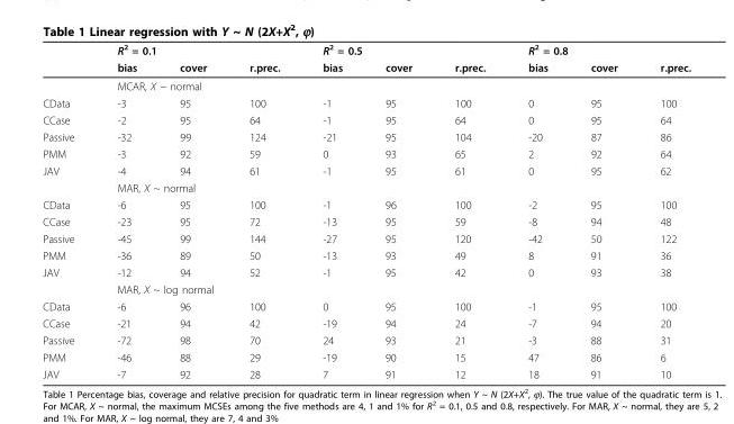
<table><thead><tr><td rowspan="2"></td><td colspan="3">R<sup>2</sup> = 0.1</td><td colspan="3">R<sup>2</sup> = 0.5</td><td colspan="3">R<sup>2</sup> = 0.8</td></tr><tr><td>bias</td><td>cover</td><td>r.prec.</td><td>bias</td><td>cover</td><td>r.prec.</td><td>bias</td><td>cover</td><td>r.prec.</td></tr></thead><tbody><tr><td></td><td colspan="9">MCAR, X ~ normal</td></tr><tr><td>CData</td><td>-3</td><td>95</td><td>100</td><td>-1</td><td>95</td><td>100</td><td>0</td><td>95</td><td>100</td></tr><tr><td>CCase</td><td>-2</td><td>95</td><td>64</td><td>-1</td><td>95</td><td>64</td><td>0</td><td>95</td><td>64</td></tr><tr><td>Passive</td><td>-32</td><td>99</td><td>124</td><td>-21</td><td>95</td><td>104</td><td>-20</td><td>87</td><td>86</td></tr><tr><td>PMM</td><td>-3</td><td>92</td><td>59</td><td>0</td><td>93</td><td>65</td><td>2</td><td>92</td><td>64</td></tr><tr><td rowspan="2">JAV</td><td>-4</td><td>94</td><td>61</td><td>-1</td><td>95</td><td>61</td><td>0</td><td>95</td><td>62</td></tr><tr><td colspan="9">MAR, X ~ normal</td></tr><tr><td>CData</td><td>-6</td><td>95</td><td>100</td><td>-1</td><td>96</td><td>100</td><td>-2</td><td>95</td><td>100</td></tr><tr><td>CCase</td><td>-23</td><td>95</td><td>72</td><td>-13</td><td>95</td><td>59</td><td>-8</td><td>94</td><td>48</td></tr><tr><td>Passive</td><td>-45</td><td>99</td><td>144</td><td>-27</td><td>95</td><td>120</td><td>-42</td><td>50</td><td>122</td></tr><tr><td>PMM</td><td>-36</td><td>89</td><td>50</td><td>-13</td><td>93</td><td>49</td><td>8</td><td>91</td><td>36</td></tr><tr><td rowspan="2">JAV</td><td>-12</td><td>94</td><td>52</td><td>-1</td><td>95</td><td>42</td><td>0</td><td>93</td><td>38</td></tr><tr><td colspan="9">MAR, X ~ log normal</td></tr><tr><td>CData</td><td>-6</td><td>96</td><td>100</td><td>0</td><td>95</td><td>100</td><td>-1</td><td>95</td><td>100</td></tr><tr><td>CCase</td><td>-21</td><td>94</td><td>42</td><td>-19</td><td>94</td><td>24</td><td>-7</td><td>94</td><td>20</td></tr><tr><td>Passive</td><td>-72</td><td>98</td><td>70</td><td>24</td><td>93</td><td>21</td><td>-3</td><td>88</td><td>31</td></tr><tr><td>PMM</td><td>-46</td><td>88</td><td>29</td><td>-19</td><td>90</td><td>15</td><td>47</td><td>86</td><td>6</td></tr><tr><td>JAV</td><td>-7</td><td>92</td><td>28</td><td>7</td><td>91</td><td>12</td><td>18</td><td>91</td><td>10</td></tr></tbody></table>